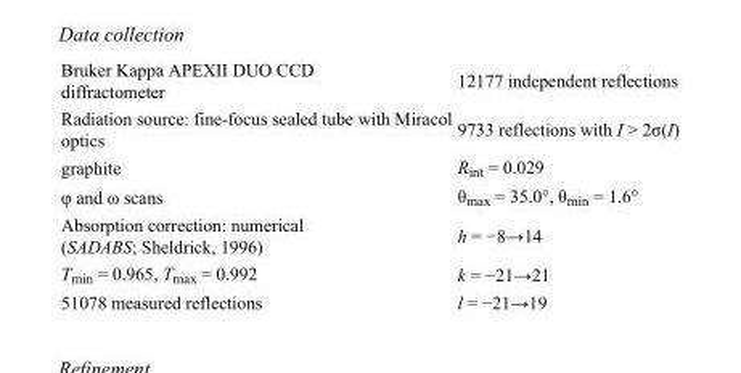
<table><tbody><tr><td>Bruker Kappa APEXII DUO CCD diffractometer</td><td>12177 independent reflections</td></tr><tr><td>Radiation source: fine-focus sealed tube with Miracol optics</td><td>9733 reflections with I &gt; 2σ(I)</td></tr><tr><td>graphite</td><td>R<sub>int</sub> = 0.029</td></tr><tr><td>φ and ω scans</td><td>θ<sub>max</sub> = 35.0°, θ<sub>min</sub> = 1.6°</td></tr><tr><td>Absorption correction: numerical (SADABS; Sheldrick, 1996)</td><td>h = −8→14</td></tr><tr><td>T<sub>min</sub> = 0.965, T<sub>max</sub> = 0.992</td><td>k = −21→21</td></tr><tr><td>51078 measured reflections</td><td>l = −21→19</td></tr></tbody></table>